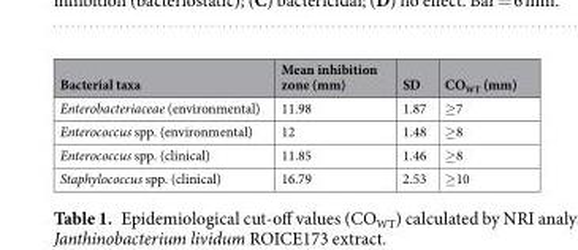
<table><thead><tr><td>Bacterial taxa</td><td>Mean inhibition zone (mm)</td><td>SD</td><td>CO<sub>WT</sub> (mm)</td></tr></thead><tbody><tr><td>Enterobacteriaceae (environmental)</td><td>11.98</td><td>1.87</td><td>≥7</td></tr><tr><td>Enterococcus spp. (environmental)</td><td>12</td><td>1.48</td><td>≥8</td></tr><tr><td>Enterococcus spp. (clinical)</td><td>11.85</td><td>1.46</td><td>≥8</td></tr><tr><td>Staphylococcus spp. (clinical)</td><td>16.79</td><td>2.53</td><td>≥10</td></tr></tbody></table>